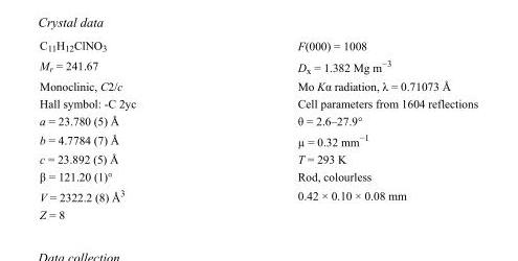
<table><tbody><tr><td>C<sub>11</sub>H<sub>12</sub>ClNO<sub>3</sub></td><td>F(000) = 1008</td></tr><tr><td>M<sub>r</sub> = 241.67</td><td>D<sub>x</sub> = 1.382 Mg m<sup>−3</sup></td></tr><tr><td>Monoclinic, C2/c</td><td>Mo Kα radiation, λ = 0.71073 Å</td></tr><tr><td>Hall symbol: -C 2yc</td><td>Cell parameters from 1604 reflections</td></tr><tr><td>a = 23.780 (5) Å</td><td>θ = 2.6–27.9°</td></tr><tr><td>b = 4.7784 (7) Å</td><td>µ = 0.32 mm<sup>−1</sup></td></tr><tr><td>c = 23.892 (5) Å</td><td>T = 293 K</td></tr><tr><td>β = 121.20 (1)°</td><td>Rod, colourless</td></tr><tr><td>V = 2322.2 (8) Å<sup>3</sup></td><td>0.42 × 0.10 × 0.08 mm</td></tr><tr><td>Z = 8</td><td></td></tr></tbody></table>